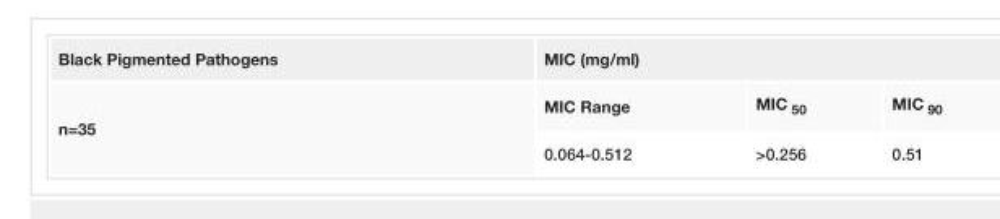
<table><tbody><tr><td>Black Pigmented Pathogens</td><td colspan="3">MIC (mg/ml)</td></tr><tr><td rowspan="2">n=35</td><td>MIC Range</td><td>MIC <sub>50</sub></td><td>MIC <sub>90</sub></td></tr><tr><td>0.064-0.512</td><td>&gt;0.256</td><td>0.51</td></tr></tbody></table>